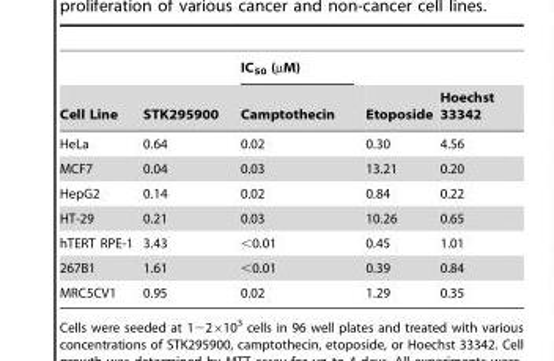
<table><thead><tr><td rowspan="2">Cell Line</td><td rowspan="2">STK295900</td><td rowspan="2">IC<sub>50</sub> (µM) Camptothecin</td><td rowspan="2">Etoposide</td><td rowspan="2">Hoechst 33342</td></tr><tr></tr></thead><tbody><tr><td>HeLa</td><td>0.64</td><td>0.02</td><td>0.30</td><td>4.56</td></tr><tr><td>MCF7</td><td>0.04</td><td>0.03</td><td>13.21</td><td>0.20</td></tr><tr><td>HepG2</td><td>0.14</td><td>0.02</td><td>0.84</td><td>0.22</td></tr><tr><td>HT-29</td><td>0.21</td><td>0.03</td><td>10.26</td><td>0.65</td></tr><tr><td>hTERT RPE-1</td><td>3.43</td><td>&lt;0.01</td><td>0.45</td><td>1.01</td></tr><tr><td>267B1</td><td>1.61</td><td>&lt;0.01</td><td>0.39</td><td>0.84</td></tr><tr><td>MRC5CV1</td><td>0.95</td><td>0.02</td><td>1.29</td><td>0.35</td></tr></tbody></table>